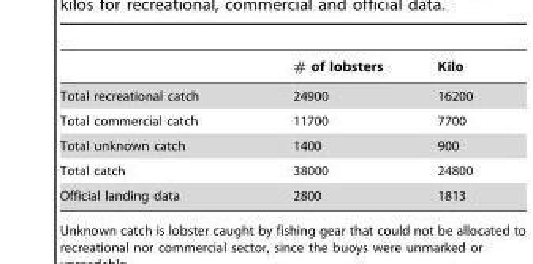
<table><thead><tr><td></td><td># of lobsters</td><td>Kilo</td></tr></thead><tbody><tr><td>Total recreational catch</td><td>24900</td><td>16200</td></tr><tr><td>Total commercial catch</td><td>11700</td><td>7700</td></tr><tr><td>Total unknown catch</td><td>1400</td><td>900</td></tr><tr><td>Total catch</td><td>38000</td><td>24800</td></tr><tr><td>Official landing data</td><td>2800</td><td>1813</td></tr></tbody></table>